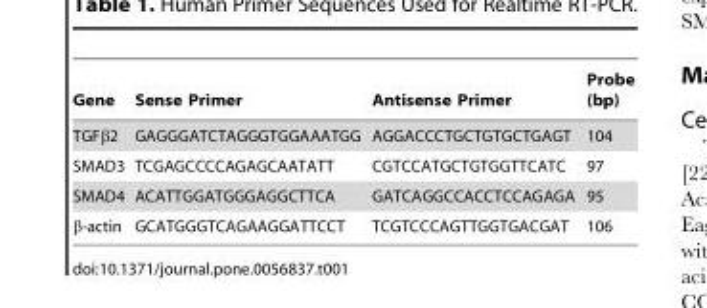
<table><thead><tr><td>Gene</td><td>Sense Primer</td><td>Antisense Primer</td><td>Probe (bp)</td></tr></thead><tbody><tr><td>TGFβ2</td><td>GAGGGATCTAGGGTGGAAATGG</td><td>AGGACCCTGCTGTGCTGAGT</td><td>104</td></tr><tr><td>SMAD3</td><td>TCGAGCCCCAGAGCAATATT</td><td>CGTCCATGCTGTGGTTCATC</td><td>97</td></tr><tr><td>SMAD4</td><td>ACATTGGATGGGAGGCTTCA</td><td>GATCAGGCCACCTCCAGAGA</td><td>95</td></tr><tr><td>β-actin</td><td>GCATGGGTCAGAAGGATTCCT</td><td>TCGTCCCAGTTGGTGACGAT</td><td>106</td></tr></tbody></table>